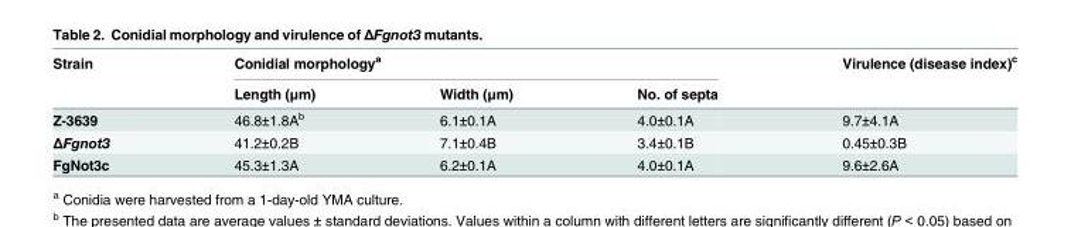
<table><thead><tr><td rowspan="2">Strain</td><td colspan="3">Conidial morphology<sup>a</sup></td><td rowspan="2">Virulence (disease index)<sup>c</sup></td></tr><tr><td>Length (μm)</td><td>Width (μm)</td><td>No. of septa</td></tr></thead><tbody><tr><td>Z-3639</td><td>46.8±1.8A<sup>b</sup></td><td>6.1±0.1A</td><td>4.0±0.1A</td><td>9.7±4.1A</td></tr><tr><td>ΔFgnot3</td><td>41.2±0.2B</td><td>7.1±0.4B</td><td>3.4±0.1B</td><td>0.45±0.3B</td></tr><tr><td>FgNot3c</td><td>45.3±1.3A</td><td>6.2±0.1A</td><td>4.0±0.1A</td><td>9.6±2.6A</td></tr></tbody></table>